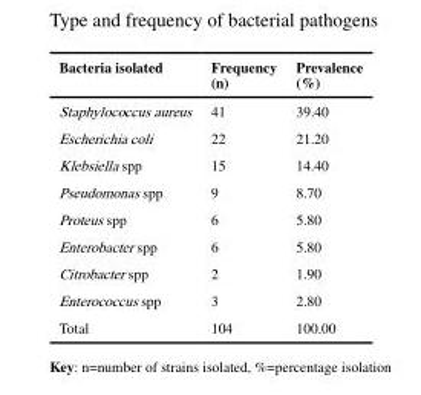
<table><thead><tr><td>Bacteria isolated</td><td>Frequency (n)</td><td>Prevalence (%)</td></tr></thead><tbody><tr><td>Staphylococcus aureus</td><td>41</td><td>39.40</td></tr><tr><td>Escherichia coli</td><td>22</td><td>21.20</td></tr><tr><td>Klebsiella spp</td><td>15</td><td>14.40</td></tr><tr><td>Pseudomonas spp</td><td>9</td><td>8.70</td></tr><tr><td>Proteus spp</td><td>6</td><td>5.80</td></tr><tr><td>Enterobacter spp</td><td>6</td><td>5.80</td></tr><tr><td>Citrobacter spp</td><td>2</td><td>1.90</td></tr><tr><td>Enterococcus spp</td><td>3</td><td>2.80</td></tr><tr><td>Total</td><td>104</td><td>100.00</td></tr></tbody></table>